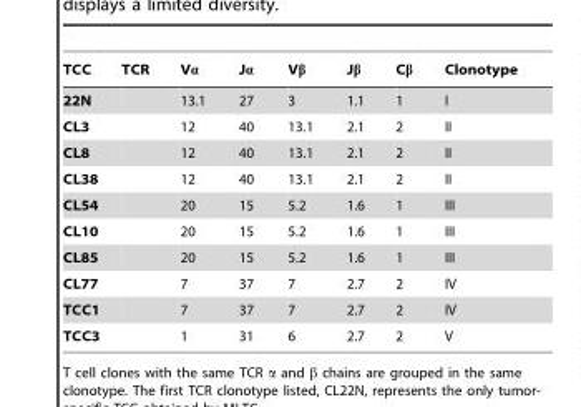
<table><thead><tr><td>TCC</td><td>TCR</td><td>Vα</td><td>Jα</td><td>Vβ</td><td>Jβ</td><td>Cβ</td><td>Clonotype</td></tr></thead><tbody><tr><td>22N</td><td></td><td>13.1</td><td>27</td><td>3</td><td>1.1</td><td>1</td><td>I</td></tr><tr><td>CL3</td><td></td><td>12</td><td>40</td><td>13.1</td><td>2.1</td><td>2</td><td>II</td></tr><tr><td>CL8</td><td></td><td>12</td><td>40</td><td>13.1</td><td>2.1</td><td>2</td><td>II</td></tr><tr><td>CL38</td><td></td><td>12</td><td>40</td><td>13.1</td><td>2.1</td><td>2</td><td>II</td></tr><tr><td>CL54</td><td></td><td>20</td><td>15</td><td>5.2</td><td>1.6</td><td>1</td><td>III</td></tr><tr><td>CL10</td><td></td><td>20</td><td>15</td><td>5.2</td><td>1.6</td><td>1</td><td>III</td></tr><tr><td>CL85</td><td></td><td>20</td><td>15</td><td>5.2</td><td>1.6</td><td>1</td><td>III</td></tr><tr><td>CL77</td><td></td><td>7</td><td>37</td><td>7</td><td>2.7</td><td>2</td><td>IV</td></tr><tr><td>TCC1</td><td></td><td>7</td><td>37</td><td>7</td><td>2.7</td><td>2</td><td>IV</td></tr><tr><td>TCC3</td><td></td><td>1</td><td>31</td><td>6</td><td>2.7</td><td>2</td><td>V</td></tr></tbody></table>